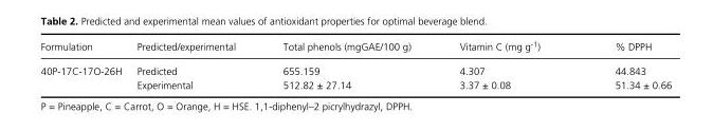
<table><thead><tr><td>Formulation</td><td>Predicted/experimental</td><td>Total phenols (mgGAE/100 g)</td><td>Vitamin C (mg g<sup>-1</sup>)</td><td>% DPPH</td></tr></thead><tbody><tr><td rowspan="2">40P- 17C- 17O- 26H</td><td>Predicted</td><td>655.159</td><td>4.307</td><td>44.843</td></tr><tr><td>Experimental</td><td>512.82 ± 27.14</td><td>3.37 ± 0.08</td><td>51.34 ± 0.66</td></tr></tbody></table>